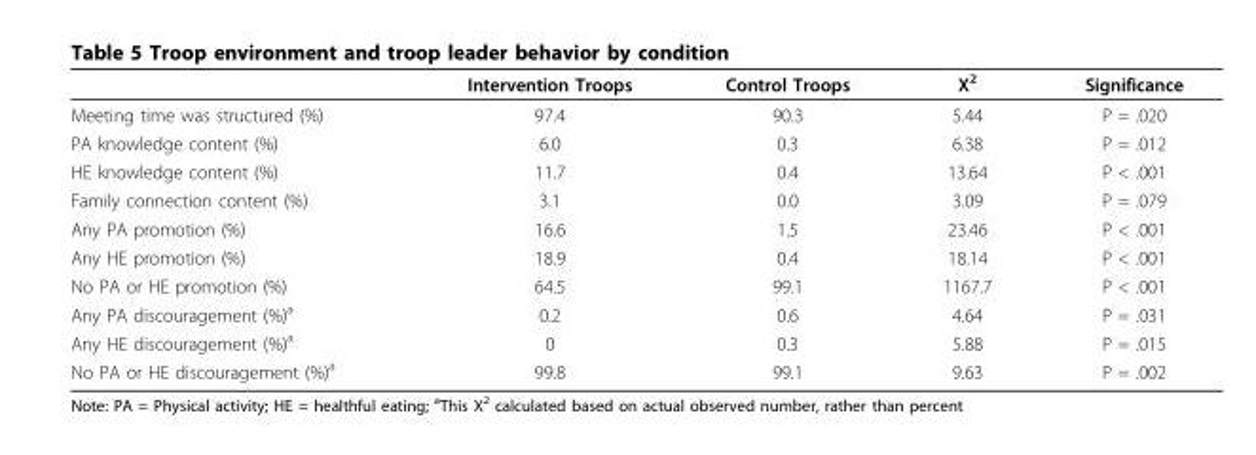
<table><thead><tr><td></td><td>Intervention Troops</td><td>Control Troops</td><td>X<sup>2</sup></td><td>Significance</td></tr></thead><tbody><tr><td>Meeting time was structured (%)</td><td>97.4</td><td>90.3</td><td>5.44</td><td>P = .020</td></tr><tr><td>PA knowledge content (%)</td><td>6.0</td><td>0.3</td><td>6.38</td><td>P = .012</td></tr><tr><td>HE knowledge content (%)</td><td>11.7</td><td>0.4</td><td>13.64</td><td>P &lt; .001</td></tr><tr><td>Family connection content (%)</td><td>3.1</td><td>0.0</td><td>3.09</td><td>P = .079</td></tr><tr><td>Any PA promotion (%)</td><td>16.6</td><td>1.5</td><td>23.46</td><td>P &lt; .001</td></tr><tr><td>Any HE promotion (%)</td><td>18.9</td><td>0.4</td><td>18.14</td><td>P &lt; .001</td></tr><tr><td>No PA or HE promotion (%)</td><td>64.5</td><td>99.1</td><td>1167.7</td><td>P &lt; .001</td></tr><tr><td>Any PA discouragement (%)<sup>a</sup></td><td>0.2</td><td>0.6</td><td>4.64</td><td>P = .031</td></tr><tr><td>Any HE discouragement (%)<sup>a</sup></td><td>0</td><td>0.3</td><td>5.88</td><td>P = .015</td></tr><tr><td>No PA or HE discouragement (%)<sup>a</sup></td><td>99.8</td><td>99.1</td><td>9.63</td><td>P = .002</td></tr></tbody></table>